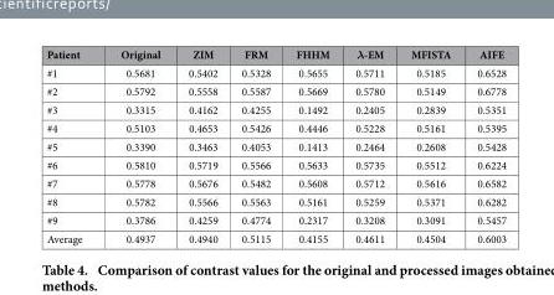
<table><thead><tr><td>Patient</td><td>Original</td><td>ZIM</td><td>FRM</td><td>FHHM</td><td>λ-EM</td><td>MFISTA</td><td>AIFE</td></tr></thead><tbody><tr><td>#1</td><td>0.5681</td><td>0.5402</td><td>0.5328</td><td>0.5655</td><td>0.5711</td><td>0.5185</td><td>0.6528</td></tr><tr><td>#2</td><td>0.5792</td><td>0.5558</td><td>0.5587</td><td>0.5669</td><td>0.5780</td><td>0.5149</td><td>0.6778</td></tr><tr><td>#3</td><td>0.3315</td><td>0.4162</td><td>0.4255</td><td>0.1492</td><td>0.2405</td><td>0.2839</td><td>0.5351</td></tr><tr><td>#4</td><td>0.5103</td><td>0.4653</td><td>0.5426</td><td>0.4446</td><td>0.5228</td><td>0.5161</td><td>0.5395</td></tr><tr><td>#5</td><td>0.3390</td><td>0.3463</td><td>0.4053</td><td>0.1413</td><td>0.2464</td><td>0.2608</td><td>0.5428</td></tr><tr><td>#6</td><td>0.5810</td><td>0.5719</td><td>0.5566</td><td>0.5633</td><td>0.5735</td><td>0.5512</td><td>0.6224</td></tr><tr><td>#7</td><td>0.5778</td><td>0.5676</td><td>0.5482</td><td>0.5608</td><td>0.5712</td><td>0.5616</td><td>0.6582</td></tr><tr><td>#8</td><td>0.5782</td><td>0.5566</td><td>0.5563</td><td>0.5161</td><td>0.5259</td><td>0.5371</td><td>0.6282</td></tr><tr><td>#9</td><td>0.3786</td><td>0.4259</td><td>0.4774</td><td>0.2317</td><td>0.3208</td><td>0.3091</td><td>0.5457</td></tr><tr><td>Average</td><td>0.4937</td><td>0.4940</td><td>0.5115</td><td>0.4155</td><td>0.4611</td><td>0.4504</td><td>0.6003</td></tr></tbody></table>